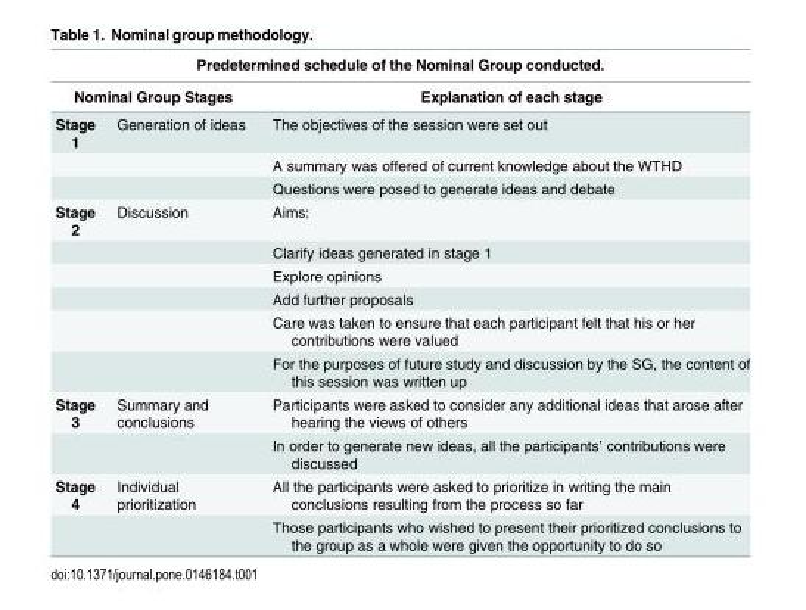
<table><thead><tr><td colspan="3">Predetermined schedule of the Nominal Group conducted.</td></tr><tr><td colspan="2">Nominal Group Stages</td><td rowspan="2">Explanation of each stage The objectives of the session were set out</td></tr><tr><td>Stage 1</td><td>Generation of ideas</td></tr></thead><tbody><tr><td></td><td></td><td>A summary was offered of current knowledge about the WTHD</td></tr><tr><td></td><td></td><td>Questions were posed to generate ideas and debate</td></tr><tr><td rowspan="6">Stage 2</td><td>Discussion</td><td>Aims:</td></tr><tr><td></td><td>Clarify ideas generated in stage 1</td></tr><tr><td></td><td>Explore opinions</td></tr><tr><td></td><td>Add further proposals</td></tr><tr><td></td><td>Care was taken to ensure that each participant felt that his or her contributions were valued</td></tr><tr><td></td><td>For the purposes of future study and discussion by the SG, the content of this session was written up</td></tr><tr><td rowspan="2">Stage 3</td><td>Summary and conclusions</td><td>Participants were asked to consider any additional ideas that arose after hearing the views of others</td></tr><tr><td></td><td>In order to generate new ideas, all the participants’ contributions were discussed</td></tr><tr><td rowspan="2">Stage 4</td><td>Individual prioritization</td><td>All the participants were asked to prioritize in writing the main conclusions resulting from the process so far</td></tr><tr><td></td><td>Those participants who wished to present their prioritized conclusions to the group as a whole were given the opportunity to do so</td></tr></tbody></table>